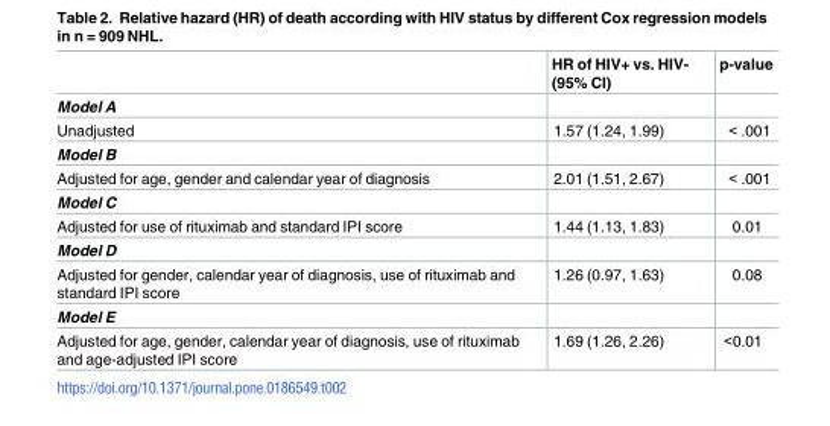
<table><thead><tr><td></td><td>HR of HIV+ vs. HIV- (95% CI)</td><td>p-value</td></tr></thead><tbody><tr><td colspan="3">Model A</td></tr><tr><td>Unadjusted</td><td>1.57 (1.24, 1.99)</td><td>&lt; .001</td></tr><tr><td colspan="3">Model B</td></tr><tr><td>Adjusted for age, gender and calendar year of diagnosis</td><td>2.01 (1.51, 2.67)</td><td>&lt; .001</td></tr><tr><td colspan="3">Model C</td></tr><tr><td>Adjusted for use of rituximab and standard IPI score</td><td>1.44 (1.13, 1.83)</td><td>0.01</td></tr><tr><td colspan="3">Model D</td></tr><tr><td>Adjusted for gender, calendar year of diagnosis, use of rituximab and standard IPI score</td><td>1.26 (0.97, 1.63)</td><td>0.08</td></tr><tr><td colspan="3">Model E</td></tr><tr><td>Adjusted for age, gender, calendar year of diagnosis, use of rituximab and age-adjusted IPI score</td><td>1.69 (1.26, 2.26)</td><td>&lt;0.01</td></tr></tbody></table>